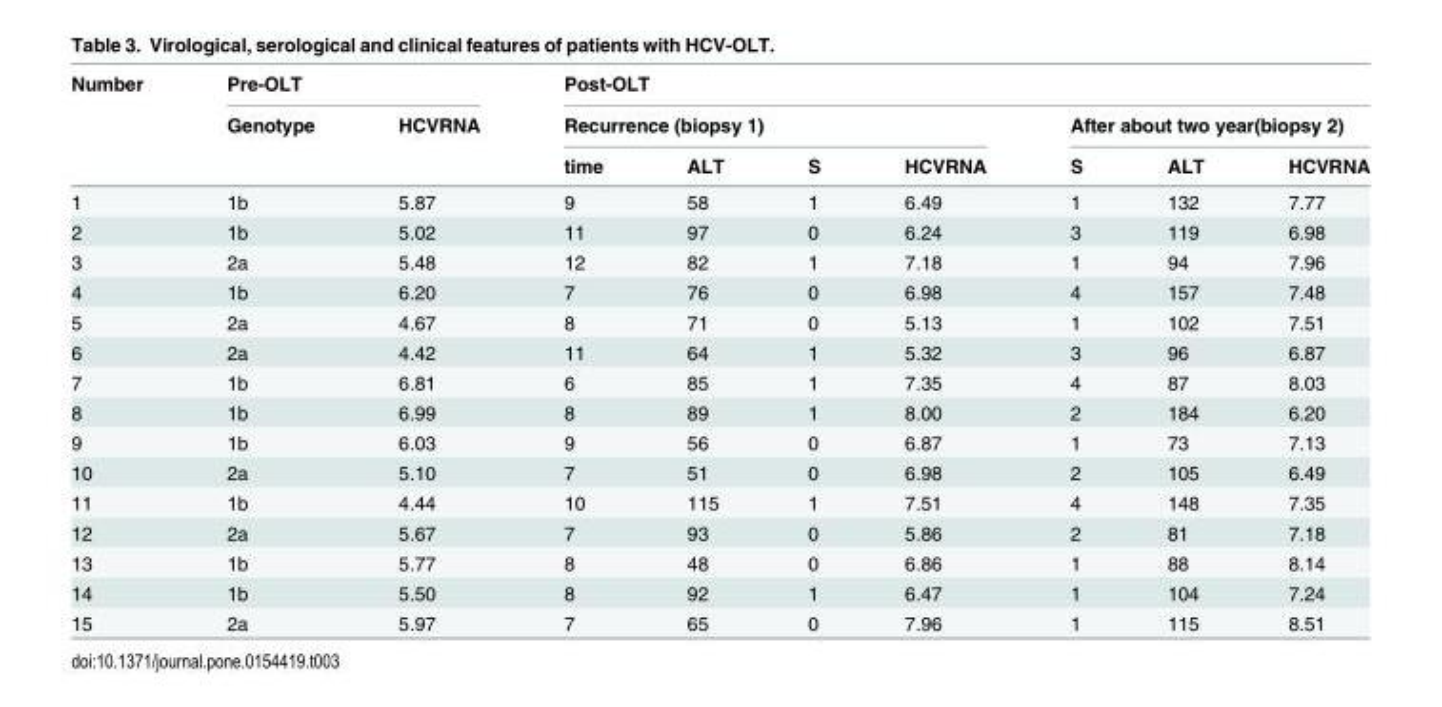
<table><thead><tr><td rowspan="3">Number</td><td colspan="2">Pre-OLT</td><td colspan="7">Post-OLT</td></tr><tr><td rowspan="2">Genotype</td><td rowspan="2">HCVRNA</td><td colspan="4">Recurrence (biopsy 1)</td><td colspan="3">After about two year(biopsy 2)</td></tr><tr><td>time</td><td>ALT</td><td>S</td><td>HCVRNA</td><td>S</td><td>ALT</td><td>HCVRNA</td></tr></thead><tbody><tr><td>1</td><td>1b</td><td>5.87</td><td>9</td><td>58</td><td>1</td><td>6.49</td><td>1</td><td>132</td><td>7.77</td></tr><tr><td>2</td><td>1b</td><td>5.02</td><td>11</td><td>97</td><td>0</td><td>6.24</td><td>3</td><td>119</td><td>6.98</td></tr><tr><td>3</td><td>2a</td><td>5.48</td><td>12</td><td>82</td><td>1</td><td>7.18</td><td>1</td><td>94</td><td>7.96</td></tr><tr><td>4</td><td>1b</td><td>6.20</td><td>7</td><td>76</td><td>0</td><td>6.98</td><td>4</td><td>157</td><td>7.48</td></tr><tr><td>5</td><td>2a</td><td>4.67</td><td>8</td><td>71</td><td>0</td><td>5.13</td><td>1</td><td>102</td><td>7.51</td></tr><tr><td>6</td><td>2a</td><td>4.42</td><td>11</td><td>64</td><td>1</td><td>5.32</td><td>3</td><td>96</td><td>6.87</td></tr><tr><td>7</td><td>1b</td><td>6.81</td><td>6</td><td>85</td><td>1</td><td>7.35</td><td>4</td><td>87</td><td>8.03</td></tr><tr><td>8</td><td>1b</td><td>6.99</td><td>8</td><td>89</td><td>1</td><td>8.00</td><td>2</td><td>184</td><td>6.20</td></tr><tr><td>9</td><td>1b</td><td>6.03</td><td>9</td><td>56</td><td>0</td><td>6.87</td><td>1</td><td>73</td><td>7.13</td></tr><tr><td>10</td><td>2a</td><td>5.10</td><td>7</td><td>51</td><td>0</td><td>6.98</td><td>2</td><td>105</td><td>6.49</td></tr><tr><td>11</td><td>1b</td><td>4.44</td><td>10</td><td>115</td><td>1</td><td>7.51</td><td>4</td><td>148</td><td>7.35</td></tr><tr><td>12</td><td>2a</td><td>5.67</td><td>7</td><td>93</td><td>0</td><td>5.86</td><td>2</td><td>81</td><td>7.18</td></tr><tr><td>13</td><td>1b</td><td>5.77</td><td>8</td><td>48</td><td>0</td><td>6.86</td><td>1</td><td>88</td><td>8.14</td></tr><tr><td>14</td><td>1b</td><td>5.50</td><td>8</td><td>92</td><td>1</td><td>6.47</td><td>1</td><td>104</td><td>7.24</td></tr><tr><td>15</td><td>2a</td><td>5.97</td><td>7</td><td>65</td><td>0</td><td>7.96</td><td>1</td><td>115</td><td>8.51</td></tr></tbody></table>